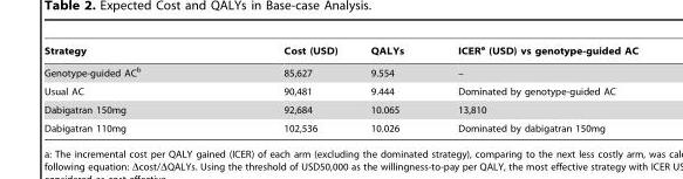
<table><thead><tr><td>Strategy</td><td>Cost (USD)</td><td>QALYs</td><td>ICER<sup>a</sup> (USD) vs genotype-guided AC</td></tr></thead><tbody><tr><td>Genotype-guided AC<sup>b</sup></td><td>85,627</td><td>9.554</td><td>–</td></tr><tr><td>Usual AC</td><td>90,481</td><td>9.444</td><td>Dominated by genotype-guided AC</td></tr><tr><td>Dabigatran 150mg</td><td>92,684</td><td>10.065</td><td>13,810</td></tr><tr><td>Dabigatran 110mg</td><td>102,536</td><td>10.026</td><td>Dominated by dabigatran 150mg</td></tr></tbody></table>